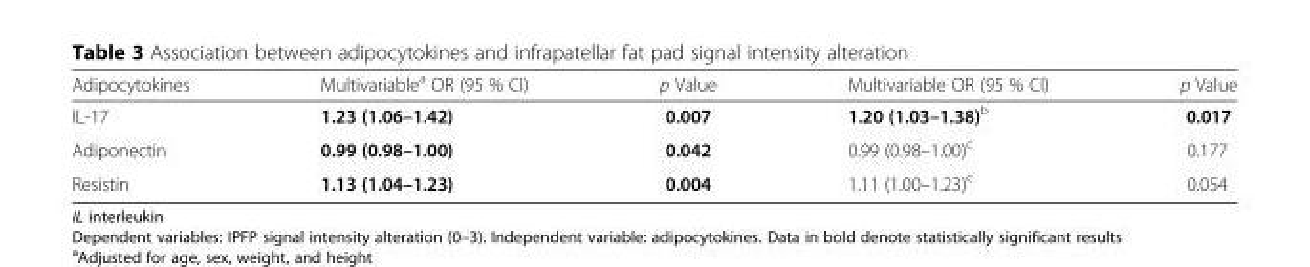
<table><thead><tr><td>Adipocytokines</td><td>Multivariable<sup>a</sup> OR (95 % CI)</td><td>p Value</td><td>Multivariable OR (95 % CI)</td><td>p Value</td></tr></thead><tbody><tr><td>IL-17</td><td>1.23 (1.06–1.42)</td><td>0.007</td><td>1.20 (1.03–1.38)<sup>b</sup></td><td>0.017</td></tr><tr><td>Adiponectin</td><td>0.99 (0.98–1.00)</td><td>0.042</td><td>0.99 (0.98–1.00)<sup>c</sup></td><td>0.177</td></tr><tr><td>Resistin</td><td>1.13 (1.04–1.23)</td><td>0.004</td><td>1.11 (1.00–1.23)<sup>c</sup></td><td>0.054</td></tr></tbody></table>